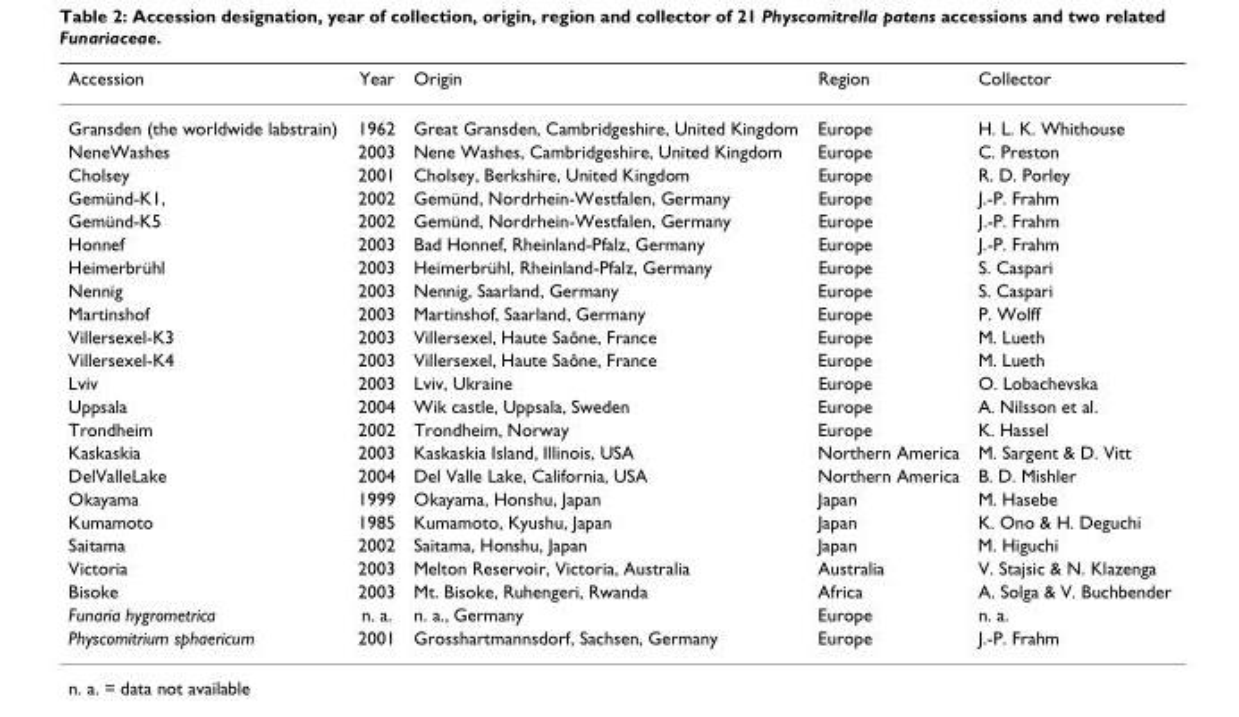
<table><thead><tr><td>Accession</td><td>Year</td><td>Origin</td><td>Region</td><td>Collector</td></tr></thead><tbody><tr><td>Gransden (the worldwide labstrain)</td><td>1962</td><td>Great Gransden, Cambridgeshire, United Kingdom</td><td>Europe</td><td>H. L. K. Whithouse</td></tr><tr><td>NeneWashes</td><td>2003</td><td>Nene Washes, Cambridgeshire, United Kingdom</td><td>Europe</td><td>C. Preston</td></tr><tr><td>Cholsey</td><td>2001</td><td>Cholsey, Berkshire, United Kingdom</td><td>Europe</td><td>R. D. Porley</td></tr><tr><td>Gemünd-K1,</td><td>2002</td><td>Gemünd, Nordrhein-Westfalen, Germany</td><td>Europe</td><td>J.-P. Frahm</td></tr><tr><td>Gemünd-K5</td><td>2002</td><td>Gemünd, Nordrhein-Westfalen, Germany</td><td>Europe</td><td>J.-P. Frahm</td></tr><tr><td>Honnef</td><td>2003</td><td>Bad Honnef, Rheinland-Pfalz, Germany</td><td>Europe</td><td>J.-P. Frahm</td></tr><tr><td>Heimerbrühl</td><td>2003</td><td>Heimerbrühl, Rheinland-Pfalz, Germany</td><td>Europe</td><td>S. Caspari</td></tr><tr><td>Nennig</td><td>2003</td><td>Nennig, Saarland, Germany</td><td>Europe</td><td>S. Caspari</td></tr><tr><td>Martinshof</td><td>2003</td><td>Martinshof, Saarland, Germany</td><td>Europe</td><td>P. Wolff</td></tr><tr><td>Villersexel-K3</td><td>2003</td><td>Villersexel, Haute Saône, France</td><td>Europe</td><td>M. Lueth</td></tr><tr><td>Villersexel-K4</td><td>2003</td><td>Villersexel, Haute Saône, France</td><td>Europe</td><td>M. Lueth</td></tr><tr><td>Lviv</td><td>2003</td><td>Lviv, Ukraine</td><td>Europe</td><td>O. Lobachevska</td></tr><tr><td>Uppsala</td><td>2004</td><td>Wik castle, Uppsala, Sweden</td><td>Europe</td><td>A. Nilsson et al.</td></tr><tr><td>Trondheim</td><td>2002</td><td>Trondheim, Norway</td><td>Europe</td><td>K. Hassel</td></tr><tr><td>Kaskaskia</td><td>2003</td><td>Kaskaskia Island, Illinois, USA</td><td>Northern America</td><td>M. Sargent &amp; D. Vitt</td></tr><tr><td>DelValleLake</td><td>2004</td><td>Del Valle Lake, California, USA</td><td>Northern America</td><td>B. D. Mishler</td></tr><tr><td>Okayama</td><td>1999</td><td>Okayama, Honshu, Japan</td><td>Japan</td><td>M. Hasebe</td></tr><tr><td>Kumamoto</td><td>1985</td><td>Kumamoto, Kyushu, Japan</td><td>Japan</td><td>K. Ono &amp; H. Deguchi</td></tr><tr><td>Saitama</td><td>2002</td><td>Saitama, Honshu, Japan</td><td>Japan</td><td>M. Higuchi</td></tr><tr><td>Victoria</td><td>2003</td><td>Melton Reservoir, Victoria, Australia</td><td>Australia</td><td>V. Stajsic &amp; N. Klazenga</td></tr><tr><td>Bisoke</td><td>2003</td><td>Mt. Bisoke, Ruhengeri, Rwanda</td><td>Africa</td><td>A. Solga &amp; V. Buchbender</td></tr><tr><td>Funaria hygrometrica</td><td>n. a.</td><td>n. a., Germany</td><td>Europe</td><td>n. a.</td></tr><tr><td>Physcomitrium sphaericum</td><td>2001</td><td>Grosshartmannsdorf, Sachsen, Germany</td><td>Europe</td><td>J.-P. Frahm</td></tr></tbody></table>